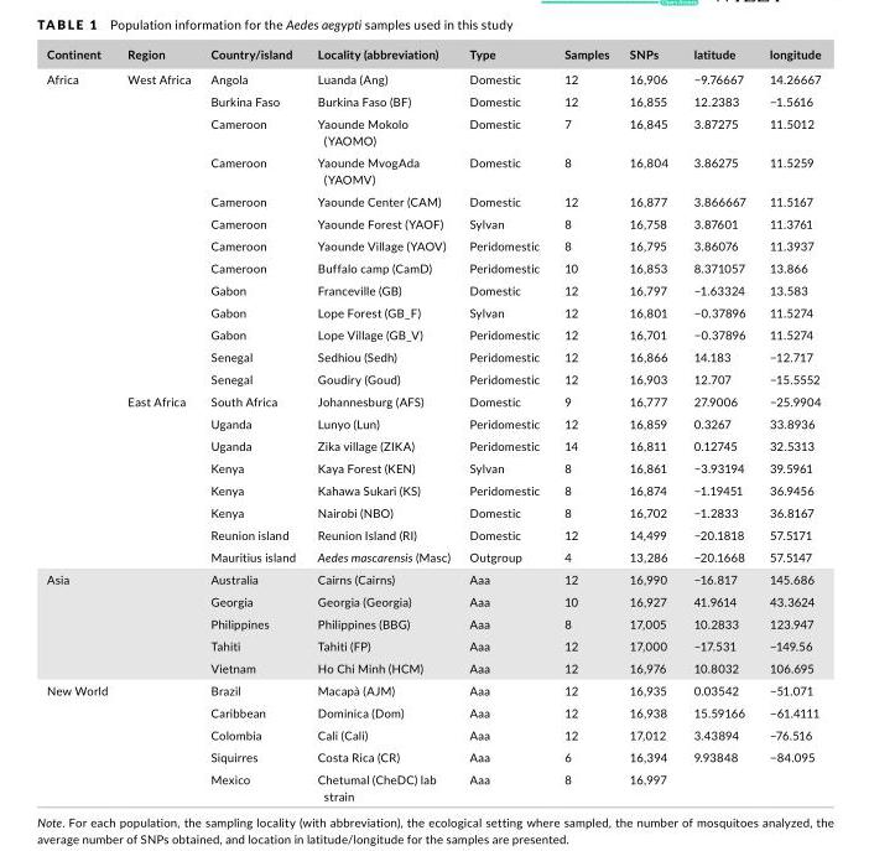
<table><thead><tr><td>Continent</td><td>Region</td><td>Country/island</td><td>Locality (abbreviation)</td><td>Type</td><td>Samples</td><td>SNPs</td><td>latitude</td><td>longitude</td></tr></thead><tbody><tr><td rowspan="21">Africa</td><td rowspan="13">West Africa</td><td>Angola</td><td>Luanda (Ang)</td><td>Domestic</td><td>12</td><td>16,906</td><td>−9.76667</td><td>14.26667</td></tr><tr><td>Burkina Faso</td><td>Burkina Faso (BF)</td><td>Domestic</td><td>12</td><td>16,855</td><td>12.2383</td><td>−1.5616</td></tr><tr><td>Cameroon</td><td>Yaounde Mokolo (YAOMO)</td><td>Domestic</td><td>7</td><td>16,845</td><td>3.87275</td><td>11.5012</td></tr><tr><td>Cameroon</td><td>Yaounde MvogAda (YAOMV)</td><td>Domestic</td><td>8</td><td>16,804</td><td>3.86275</td><td>11.5259</td></tr><tr><td>Cameroon</td><td>Yaounde Center (CAM)</td><td>Domestic</td><td>12</td><td>16,877</td><td>3.866667</td><td>11.5167</td></tr><tr><td>Cameroon</td><td>Yaounde Forest (YAOF)</td><td>Sylvan</td><td>8</td><td>16,758</td><td>3.87601</td><td>11.3761</td></tr><tr><td>Cameroon</td><td>Yaounde Village (YAOV)</td><td>Peridomestic</td><td>8</td><td>16,795</td><td>3.86076</td><td>11.3937</td></tr><tr><td>Cameroon</td><td>Buffalo camp (CamD)</td><td>Peridomestic</td><td>10</td><td>16,853</td><td>8.371057</td><td>13.866</td></tr><tr><td>Gabon</td><td>Franceville (GB)</td><td>Domestic</td><td>12</td><td>16,797</td><td>−1.63324</td><td>13.583</td></tr><tr><td>Gabon</td><td>Lope Forest (GB_F)</td><td>Sylvan</td><td>12</td><td>16,801</td><td>−0.37896</td><td>11.5274</td></tr><tr><td>Gabon</td><td>Lope Village (GB_V)</td><td>Peridomestic</td><td>12</td><td>16,701</td><td>−0.37896</td><td>11.5274</td></tr><tr><td>Senegal</td><td>Sedhiou (Sedh)</td><td>Peridomestic</td><td>12</td><td>16,866</td><td>14.183</td><td>−12.717</td></tr><tr><td>Senegal</td><td>Goudiry (Goud)</td><td>Peridomestic</td><td>12</td><td>16,903</td><td>12.707</td><td>−15.5552</td></tr><tr><td rowspan="6">East Africa</td><td>South Africa</td><td>Johannesburg (AFS)</td><td>Domestic</td><td>9</td><td>16,777</td><td>27.9006</td><td>−25.9904</td></tr><tr><td>Uganda</td><td>Lunyo (Lun)</td><td>Peridomestic</td><td>12</td><td>16,859</td><td>0.3267</td><td>33.8936</td></tr><tr><td>Uganda</td><td>Zika village (ZIKA)</td><td>Peridomestic</td><td>14</td><td>16,811</td><td>0.12745</td><td>32.5313</td></tr><tr><td>Kenya</td><td>Kaya Forest (KEN)</td><td>Sylvan</td><td>8</td><td>16,861</td><td>−3.93194</td><td>39.5961</td></tr><tr><td>Kenya</td><td>Kahawa Sukari (KS)</td><td>Peridomestic</td><td>8</td><td>16,874</td><td>−1.19451</td><td>36.9456</td></tr><tr><td>Kenya</td><td>Nairobi (NBO)</td><td>Domestic</td><td>8</td><td>16,702</td><td>−1.2833</td><td>36.8167</td></tr><tr><td></td><td>Reunion island</td><td>Reunion Island (RI)</td><td>Domestic</td><td>12</td><td>14,499</td><td>−20.1818</td><td>57.5171</td></tr><tr><td></td><td>Mauritius island</td><td>Aedes mascarensis (Masc)</td><td>Outgroup</td><td>4</td><td>13,286</td><td>−20.1668</td><td>57.5147</td></tr><tr><td rowspan="5">Asia</td><td></td><td>Australia</td><td>Cairns (Cairns)</td><td>Aaa</td><td>12</td><td>16,990</td><td>−16.817</td><td>145.686</td></tr><tr><td></td><td>Georgia</td><td>Georgia (Georgia)</td><td>Aaa</td><td>10</td><td>16,927</td><td>41.9614</td><td>43.3624</td></tr><tr><td></td><td>Philippines</td><td>Philippines (BBG)</td><td>Aaa</td><td>8</td><td>17,005</td><td>10.2833</td><td>123.947</td></tr><tr><td></td><td>Tahiti</td><td>Tahiti (FP)</td><td>Aaa</td><td>12</td><td>17,000</td><td>−17.531</td><td>−149.56</td></tr><tr><td></td><td>Vietnam</td><td>Ho Chi Minh (HCM)</td><td>Aaa</td><td>12</td><td>16,976</td><td>10.8032</td><td>106.695</td></tr><tr><td rowspan="5">New World</td><td></td><td>Brazil</td><td>Macapà (AJM)</td><td>Aaa</td><td>12</td><td>16,935</td><td>0.03542</td><td>−51.071</td></tr><tr><td></td><td>Caribbean</td><td>Dominica (Dom)</td><td>Aaa</td><td>12</td><td>16,938</td><td>15.59166</td><td>−61.4111</td></tr><tr><td></td><td>Colombia</td><td>Cali (Cali)</td><td>Aaa</td><td>12</td><td>17,012</td><td>3.43894</td><td>−76.516</td></tr><tr><td></td><td>Siquirres</td><td>Costa Rica (CR)</td><td>Aaa</td><td>6</td><td>16,394</td><td>9.93848</td><td>−84.095</td></tr><tr><td></td><td>Mexico</td><td>Chetumal (CheDC) lab strain</td><td>Aaa</td><td>8</td><td>16,997</td><td></td><td></td></tr></tbody></table>